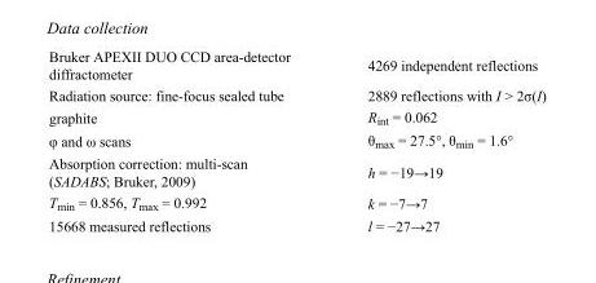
<table><tbody><tr><td>Bruker APEXII DUO CCD area-detector diffractometer</td><td>4269 independent reflections</td></tr><tr><td>Radiation source: fine-focus sealed tube</td><td>2889 reflections with I &gt; 2σ(I)</td></tr><tr><td>graphite</td><td>R<sub>int</sub> = 0.062</td></tr><tr><td>φ and ω scans</td><td>θ<sub>max</sub> = 27.5°, θ<sub>min</sub> = 1.6°</td></tr><tr><td>Absorption correction: multi-scan (SADABS; Bruker, 2009)</td><td>h = −19→19</td></tr><tr><td>T<sub>min</sub> = 0.856, T<sub>max</sub> = 0.992</td><td>k = −7→7</td></tr><tr><td>15668 measured reflections</td><td>l = −27→27</td></tr></tbody></table>